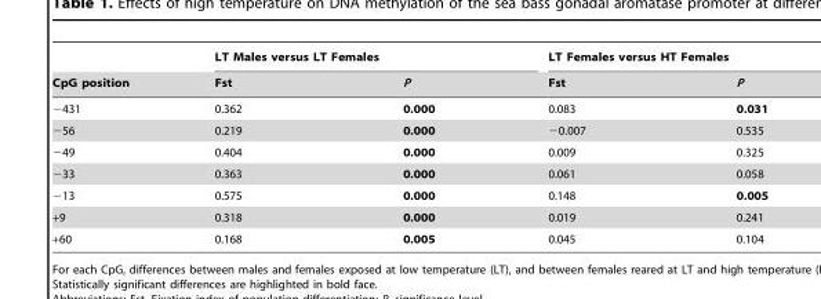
<table><thead><tr><td rowspan="2">CpG position</td><td colspan="2">LT Males versus LT Females</td><td colspan="2">LT Females versus HT Females</td></tr><tr><td>Fst</td><td>P</td><td>Fst</td><td>P</td></tr></thead><tbody><tr><td>−431</td><td>0.362</td><td>0.000</td><td>0.083</td><td>0.031</td></tr><tr><td>−56</td><td>0.219</td><td>0.000</td><td>−0.007</td><td>0.535</td></tr><tr><td>−49</td><td>0.404</td><td>0.000</td><td>0.009</td><td>0.325</td></tr><tr><td>−33</td><td>0.363</td><td>0.000</td><td>0.061</td><td>0.058</td></tr><tr><td>−13</td><td>0.575</td><td>0.000</td><td>0.148</td><td>0.005</td></tr><tr><td>+9</td><td>0.318</td><td>0.000</td><td>0.019</td><td>0.241</td></tr><tr><td>+60</td><td>0.168</td><td>0.005</td><td>0.045</td><td>0.104</td></tr></tbody></table>